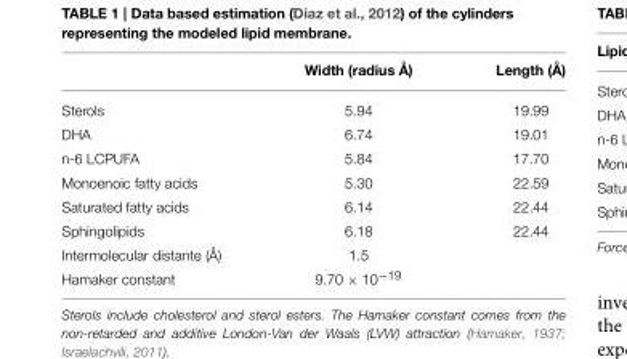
<table><thead><tr><td></td><td>Width (radius Å)</td><td>Length (Å)</td></tr></thead><tbody><tr><td>Sterols</td><td>5.94</td><td>19.99</td></tr><tr><td>DHA</td><td>6.74</td><td>19.01</td></tr><tr><td>n-6 LCPUFA</td><td>5.84</td><td>17.70</td></tr><tr><td>Monoenoic fatty acids</td><td>5.30</td><td>22.59</td></tr><tr><td>Saturated fatty acids</td><td>6.14</td><td>22.44</td></tr><tr><td>Sphingolipids</td><td>6.18</td><td>22.44</td></tr><tr><td>Intermolecular distante (Å)</td><td>1.5</td><td></td></tr><tr><td>Hamaker constant</td><td>9.70 × 10<sup>−19</sup></td><td></td></tr></tbody></table>